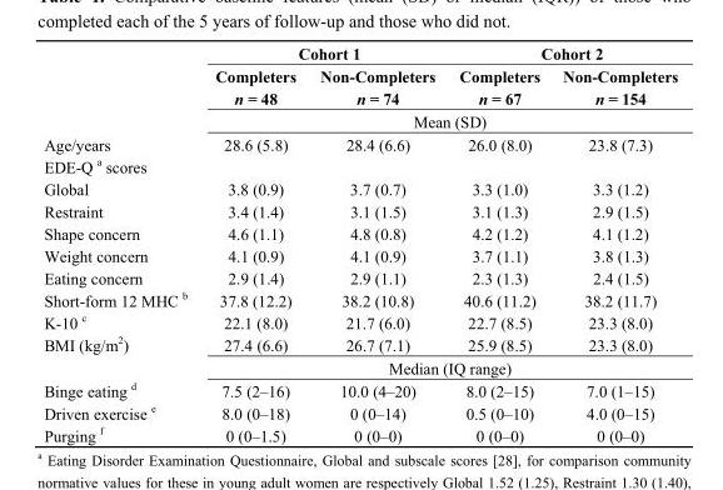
<table><thead><tr><td rowspan="3"></td><td colspan="2">Cohort 1</td><td colspan="2">Cohort 2</td></tr><tr><td rowspan="2">Completers n = 48</td><td rowspan="2">Non-Completers n = 74</td><td rowspan="2">Completers n = 67</td><td rowspan="2">Non-Completers n = 154</td></tr><tr></tr></thead><tbody><tr><td></td><td colspan="4">Mean (SD)</td></tr><tr><td>Age/years</td><td>28.6 (5.8)</td><td>28.4 (6.6)</td><td>26.0 (8.0)</td><td>23.8 (7.3)</td></tr><tr><td colspan="5">EDE-Q <sup>a</sup> scores</td></tr><tr><td>Global</td><td>3.8 (0.9)</td><td>3.7 (0.7)</td><td>3.3 (1.0)</td><td>3.3 (1.2)</td></tr><tr><td>Restraint</td><td>3.4 (1.4)</td><td>3.1 (1.5)</td><td>3.1 (1.3)</td><td>2.9 (1.5)</td></tr><tr><td>Shape concern</td><td>4.6 (1.1)</td><td>4.8 (0.8)</td><td>4.2 (1.2)</td><td>4.1 (1.2)</td></tr><tr><td>Weight concern</td><td>4.1 (0.9)</td><td>4.1 (0.9)</td><td>3.7 (1.1)</td><td>3.8 (1.3)</td></tr><tr><td>Eating concern</td><td>2.9 (1.4)</td><td>2.9 (1.1)</td><td>2.3 (1.3)</td><td>2.4 (1.5)</td></tr><tr><td>Short-form 12 MHC <sup>b</sup></td><td>37.8 (12.2)</td><td>38.2 (10.8)</td><td>40.6 (11.2)</td><td>38.2 (11.7)</td></tr><tr><td>K-10 <sup>c</sup></td><td>22.1 (8.0)</td><td>21.7 (6.0)</td><td>22.7 (8.5)</td><td>23.3 (8.0)</td></tr><tr><td rowspan="2">BMI (kg/m<sup>2</sup>)</td><td>27.4 (6.6)</td><td>26.7 (7.1)</td><td>25.9 (8.5)</td><td>23.3 (8.0)</td></tr><tr><td colspan="4">Median (IQ range)</td></tr><tr><td>Binge eating <sup>d</sup></td><td>7.5 (2–16)</td><td>10.0 (4–20)</td><td>8.0 (2–15)</td><td>7.0 (1–15)</td></tr><tr><td>Driven exercise <sup>e</sup></td><td>8.0 (0–18)</td><td>0 (0–14)</td><td>0.5 (0–10)</td><td>4.0 (0–15)</td></tr><tr><td>Purging <sup>f</sup></td><td>0 (0–1.5)</td><td>0 (0–0)</td><td>0 (0–0)</td><td>0 (0–0)</td></tr></tbody></table>